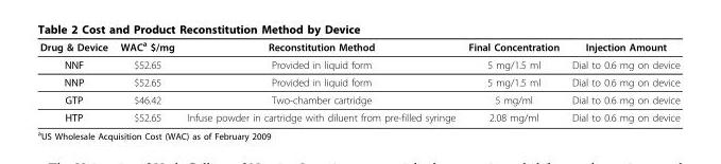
<table><thead><tr><td>Drug &amp; Device</td><td>WAC<sup>a</sup> $/mg</td><td>Reconstitution Method</td><td>Final Concentration</td><td>Injection Amount</td></tr></thead><tbody><tr><td>NNF</td><td>$52.65</td><td>Provided in liquid form</td><td>5 mg/1.5 ml</td><td>Dial to 0.6 mg on device</td></tr><tr><td>NNP</td><td>$52.65</td><td>Provided in liquid form</td><td>5 mg/1.5 ml</td><td>Dial to 0.6 mg on device</td></tr><tr><td>GTP</td><td>$46.42</td><td>Two-chamber cartridge</td><td>5 mg/ml</td><td>Dial to 0.6 mg on device</td></tr><tr><td>HTP</td><td>$52.65</td><td>Infuse powder in cartridge with diluent from pre-filled syringe</td><td>2.08 mg/ml</td><td>Dial to 0.6 mg on device</td></tr></tbody></table>